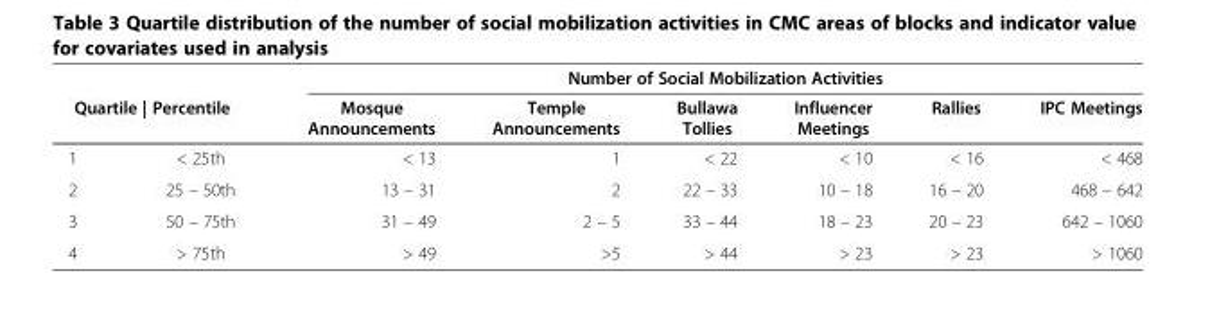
<table><thead><tr><td></td><td></td><td colspan="6">Number of Social Mobilization Activities</td></tr><tr><td colspan="2">Quartile | Percentile</td><td>Mosque Announcements</td><td>Temple Announcements</td><td>Bullawa Tollies</td><td>Influencer Meetings</td><td>Rallies</td><td>IPC Meetings</td></tr></thead><tbody><tr><td>1</td><td>&lt; 25th</td><td>&lt; 13</td><td>1</td><td>&lt; 22</td><td>&lt; 10</td><td>&lt; 16</td><td>&lt; 468</td></tr><tr><td>2</td><td>25 – 50th</td><td>13 – 31</td><td>2</td><td>22 – 33</td><td>10 – 18</td><td>16 – 20</td><td>468 – 642</td></tr><tr><td>3</td><td>50 – 75th</td><td>31 – 49</td><td>2 – 5</td><td>33 – 44</td><td>18 – 23</td><td>20 – 23</td><td>642 – 1060</td></tr><tr><td>4</td><td>&gt; 75th</td><td>&gt; 49</td><td>&gt;5</td><td>&gt; 44</td><td>&gt; 23</td><td>&gt; 23</td><td>&gt; 1060</td></tr></tbody></table>